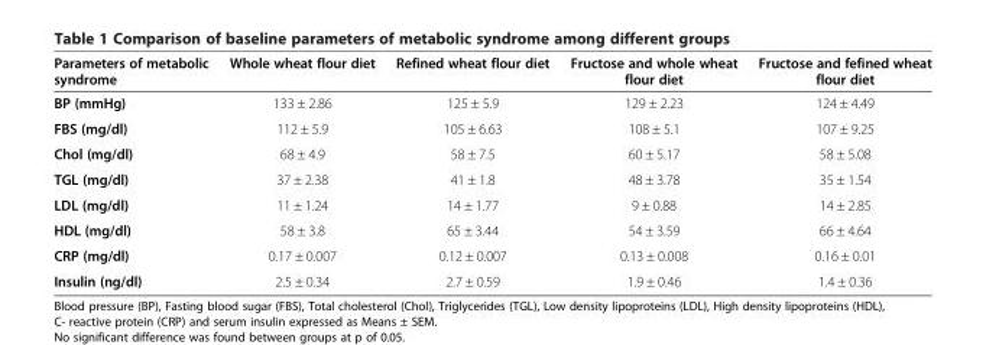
<table><thead><tr><td>Parameters of metabolic syndrome</td><td>Whole wheat flour diet</td><td>Refined wheat flour diet</td><td>Fructose and whole wheat flour diet</td><td>Fructose and fefined wheat flour diet</td></tr></thead><tbody><tr><td>BP (mmHg)</td><td>133 ± 2.86</td><td>125 ± 5.9</td><td>129 ± 2.23</td><td>124 ± 4.49</td></tr><tr><td>FBS (mg/dl)</td><td>112 ± 5.9</td><td>105 ± 6.63</td><td>108 ± 5.1</td><td>107 ± 9.25</td></tr><tr><td>Chol (mg/dl)</td><td>68 ± 4.9</td><td>58 ± 7.5</td><td>60 ± 5.17</td><td>58 ± 5.08</td></tr><tr><td>TGL (mg/dl)</td><td>37 ± 2.38</td><td>41 ± 1.8</td><td>48 ± 3.78</td><td>35 ± 1.54</td></tr><tr><td>LDL (mg/dl)</td><td>11 ± 1.24</td><td>14 ± 1.77</td><td>9 ± 0.88</td><td>14 ± 2.85</td></tr><tr><td>HDL (mg/dl)</td><td>58 ± 3.8</td><td>65 ± 3.44</td><td>54 ± 3.59</td><td>66 ± 4.64</td></tr><tr><td>CRP (mg/dl)</td><td>0.17 ± 0.007</td><td>0.12 ± 0.007</td><td>0.13 ± 0.008</td><td>0.16 ± 0.01</td></tr><tr><td>Insulin (ng/dl)</td><td>2.5 ± 0.34</td><td>2.7 ± 0.59</td><td>1.9 ± 0.46</td><td>1.4 ± 0.36</td></tr></tbody></table>